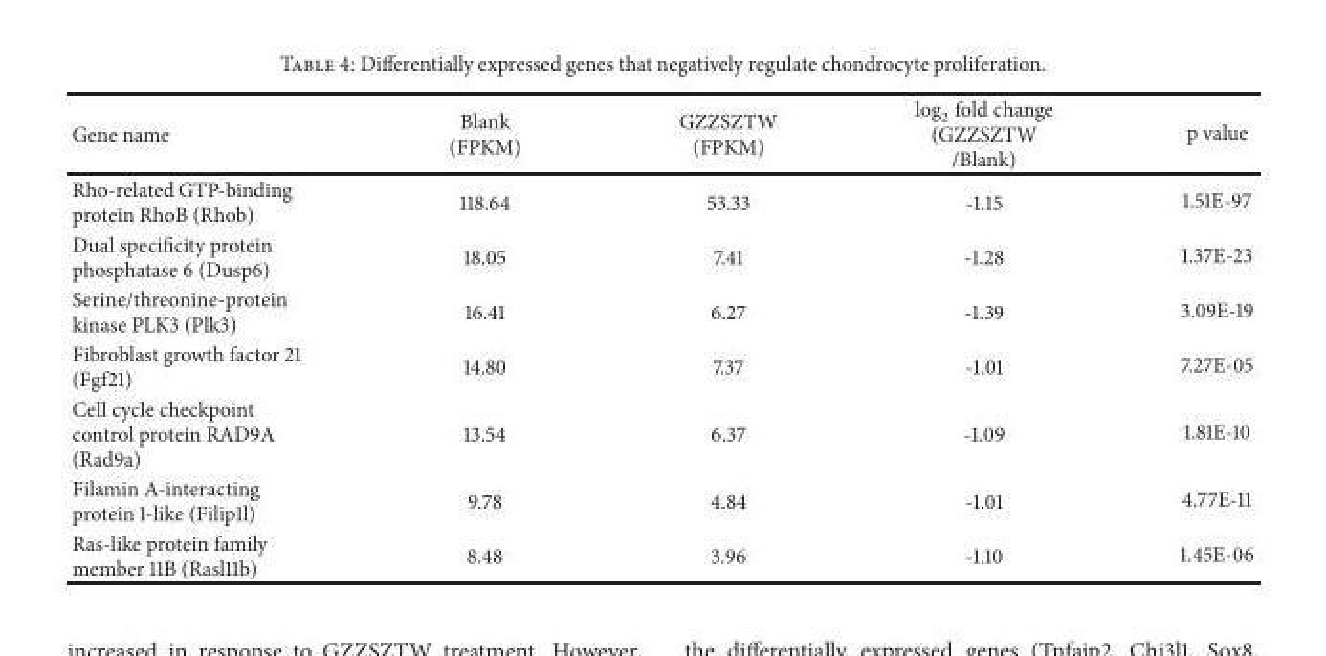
<table><thead><tr><td>Gene name</td><td>Blank (FPKM)</td><td>GZZSZTW (FPKM)</td><td>log<sub>2</sub> fold change (GZZSZTW /Blank)</td><td>p value</td></tr></thead><tbody><tr><td>Rho-related GTP-binding protein RhoB (Rhob)</td><td>118.64</td><td>53.33</td><td>-1.15</td><td>1.51E-97</td></tr><tr><td>Dual specificity protein phosphatase 6 (Dusp6)</td><td>18.05</td><td>7.41</td><td>-1.28</td><td>1.37E-23</td></tr><tr><td>Serine/threonine-protein kinase PLK3 (Plk3)</td><td>16.41</td><td>6.27</td><td>-1.39</td><td>3.09E-19</td></tr><tr><td>Fibroblast growth factor 21 (Fgf21)</td><td>14.80</td><td>7.37</td><td>-1.01</td><td>7.27E-05</td></tr><tr><td>Cell cycle checkpoint control protein RAD9A (Rad9a)</td><td>13.54</td><td>6.37</td><td>-1.09</td><td>1.81E-10</td></tr><tr><td>Filamin A-interacting protein 1-like (Filip1l)</td><td>9.78</td><td>4.84</td><td>-1.01</td><td>4.77E-11</td></tr><tr><td>Ras-like protein family member 11B (Rasl11b)</td><td>8.48</td><td>3.96</td><td>-1.10</td><td>1.45E-06</td></tr></tbody></table>